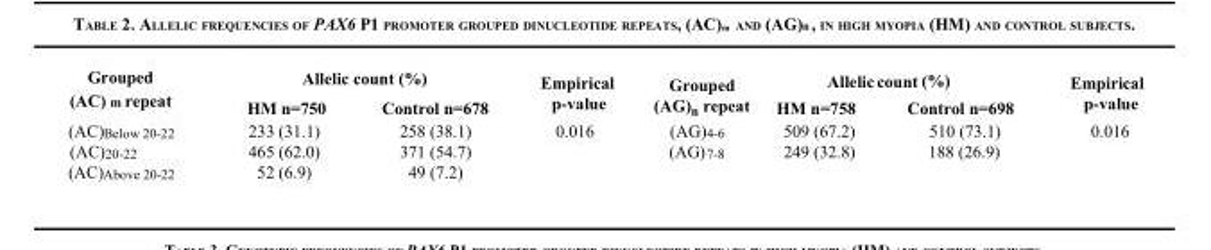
<table><thead><tr><td rowspan="2">Grouped (AC) <sub>m</sub> repeat</td><td colspan="2">Allelic count (%)</td><td rowspan="2">Empirical p-value</td><td rowspan="2">Grouped (AG)<sub>n</sub> repeat</td><td colspan="2">Allelic count (%)</td><td rowspan="2">Empirical p-value</td></tr><tr><td>HM n=750</td><td>Control n=678</td><td>HM n=758</td><td>Control n=698</td></tr></thead><tbody><tr><td>(AC)<sub>Below 20-22</sub></td><td>233 (31.1)</td><td>258 (38.1)</td><td rowspan="3">0.016</td><td>(AG)<sub>4-6</sub></td><td>509 (67.2)</td><td>510 (73.1)</td><td rowspan="3">0.016</td></tr><tr><td>(AC)<sub>20-22</sub></td><td>465 (62.0)</td><td>371 (54.7)</td><td>(AG)<sub>7-8</sub></td><td>249 (32.8)</td><td>188 (26.9)</td></tr><tr><td>(AC)<sub>Above 20-22</sub></td><td>52 (6.9)</td><td>49 (7.2)</td><td></td><td></td><td></td></tr></tbody></table>